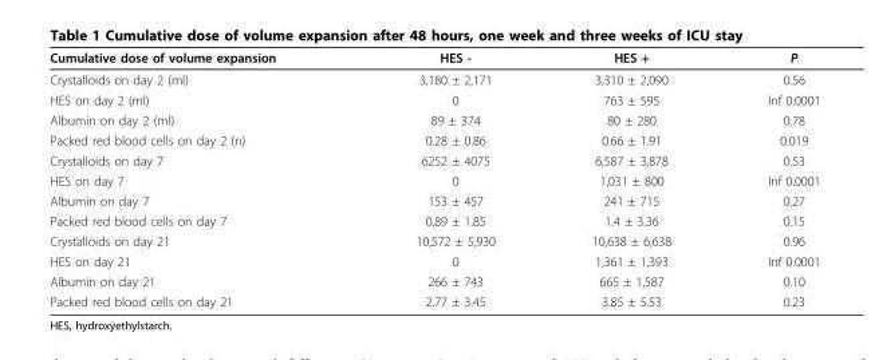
<table><thead><tr><td>Cumulative dose of volume expansion</td><td>HES -</td><td>HES +</td><td>P</td></tr></thead><tbody><tr><td>Crystalloids on day 2 (ml)</td><td>3,180 ± 2,171</td><td>3,310 ± 2,090</td><td>0.56</td></tr><tr><td>HES on day 2 (ml)</td><td>0</td><td>763 ± 595</td><td>Inf 0.0001</td></tr><tr><td>Albumin on day 2 (ml)</td><td>89 ± 374</td><td>80 ± 280</td><td>0.78</td></tr><tr><td>Packed red blood cells on day 2 (n)</td><td>0.28 ± 0.86</td><td>0.66 ± 1.91</td><td>0.019</td></tr><tr><td>Crystalloids on day 7</td><td>6252 ± 4075</td><td>6,587 ± 3,878</td><td>0.53</td></tr><tr><td>HES on day 7</td><td>0</td><td>1,031 ± 800</td><td>Inf 0.0001</td></tr><tr><td>Albumin on day 7</td><td>153 ± 457</td><td>241 ± 715</td><td>0.27</td></tr><tr><td>Packed red blood cells on day 7</td><td>0.89 ± 1.85</td><td>1.4 ± 3.36</td><td>0.15</td></tr><tr><td>Crystalloids on day 21</td><td>10,572 ± 5,930</td><td>10,638 ± 6,638</td><td>0.96</td></tr><tr><td>HES on day 21</td><td>0</td><td>1,361 ± 1,393</td><td>Inf 0.0001</td></tr><tr><td>Albumin on day 21</td><td>266 ± 743</td><td>665 ± 1,587</td><td>0.10</td></tr><tr><td>Packed red blood cells on day 21</td><td>2.77 ± 3.45</td><td>3.85 ± 5.53</td><td>0.23</td></tr></tbody></table>